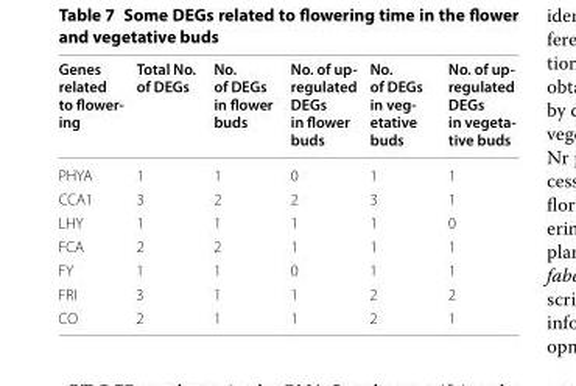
<table><thead><tr><td>Genes related to flower‑ ing</td><td>Total No. of DEGs</td><td>No. of DEGs in flower buds</td><td>No. of up‑ regulated DEGs in flower buds</td><td>No. of DEGs in veg‑ etative buds</td><td>No. of up‑ regulated DEGs in vegeta‑ tive buds</td></tr></thead><tbody><tr><td>PHYA</td><td>1</td><td>1</td><td>0</td><td>1</td><td>1</td></tr><tr><td>CCA1</td><td>3</td><td>2</td><td>2</td><td>3</td><td>1</td></tr><tr><td>LHY</td><td>1</td><td>1</td><td>1</td><td>1</td><td>0</td></tr><tr><td>FCA</td><td>2</td><td>2</td><td>1</td><td>1</td><td>1</td></tr><tr><td>FY</td><td>1</td><td>1</td><td>0</td><td>1</td><td>1</td></tr><tr><td>FRI</td><td>3</td><td>1</td><td>1</td><td>2</td><td>2</td></tr><tr><td>CO</td><td>2</td><td>1</td><td>1</td><td>2</td><td>1</td></tr></tbody></table>